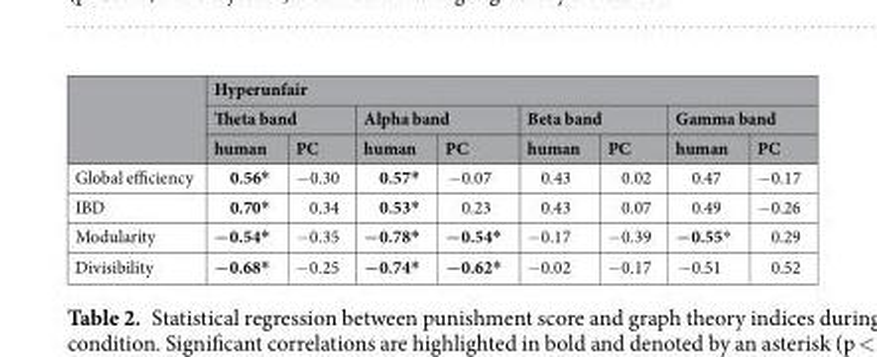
<table><thead><tr><td rowspan="3"></td><td colspan="8">Hyperunfair</td></tr><tr><td colspan="2">Theta band</td><td colspan="2">Alpha band</td><td colspan="2">Beta band</td><td colspan="2">Gamma band</td></tr><tr><td>human</td><td>PC</td><td>human</td><td>PC</td><td>human</td><td>PC</td><td>human</td><td>PC</td></tr></thead><tbody><tr><td>Global efficiency</td><td>0.56*</td><td>−0.30</td><td>0.57*</td><td>−0.07</td><td>0.43</td><td>0.02</td><td>0.47</td><td>−0.17</td></tr><tr><td>IBD</td><td>0.70*</td><td>0.34</td><td>0.53*</td><td>0.23</td><td>0.43</td><td>0.07</td><td>0.49</td><td>−0.26</td></tr><tr><td>Modularity</td><td>−0.54*</td><td>−0.35</td><td>−0.78*</td><td>−0.54*</td><td>−0.17</td><td>−0.39</td><td>−0.55*</td><td>0.29</td></tr><tr><td>Divisibility</td><td>−0.68*</td><td>−0.25</td><td>−0.74*</td><td>−0.62*</td><td>−0.02</td><td>−0.17</td><td>−0.51</td><td>0.52</td></tr></tbody></table>